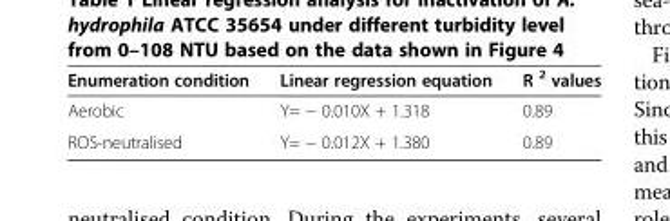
<table><thead><tr><td>Enumeration condition</td><td>Linear regression equation</td><td>R <sup>2</sup> values</td></tr></thead><tbody><tr><td>Aerobic</td><td>Y= − 0.010X + 1.318</td><td>0.89</td></tr><tr><td>ROS-neutralised</td><td>Y= − 0.012X + 1.380</td><td>0.89</td></tr></tbody></table>